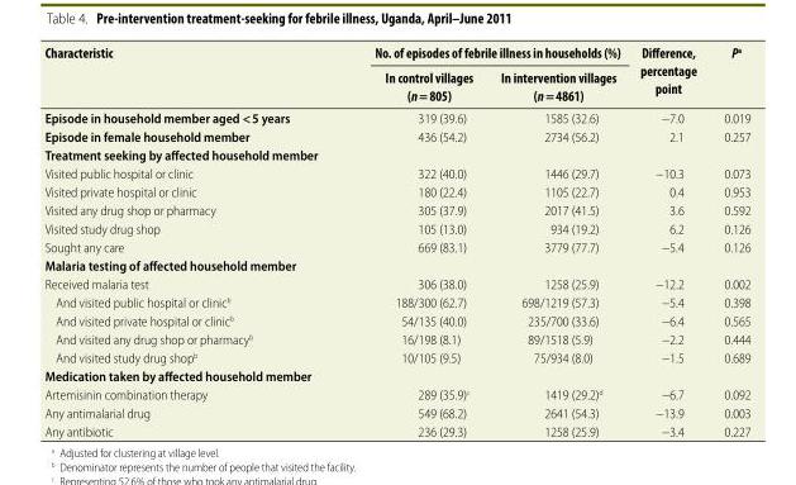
<table><thead><tr><td rowspan="2">Characteristic</td><td colspan="2">No. of episodes of febrile illness in households (%)</td><td rowspan="2">Difference, percentage point</td><td rowspan="2">P<sup>a</sup></td></tr><tr><td>In control villages (n = 805)</td><td>In intervention villages (n = 4861)</td></tr></thead><tbody><tr><td>Episode in household member aged &lt; 5 years</td><td>319 (39.6)</td><td>1585 (32.6)</td><td>−7.0</td><td>0.019</td></tr><tr><td>Episode in female household member</td><td>436 (54.2)</td><td>2734 (56.2)</td><td>2.1</td><td>0.257</td></tr><tr><td colspan="5">Treatment seeking by affected household member</td></tr><tr><td>Visited public hospital or clinic</td><td>322 (40.0)</td><td>1446 (29.7)</td><td>−10.3</td><td>0.073</td></tr><tr><td>Visited private hospital or clinic</td><td>180 (22.4)</td><td>1105 (22.7)</td><td>0.4</td><td>0.953</td></tr><tr><td>Visited any drug shop or pharmacy</td><td>305 (37.9)</td><td>2017 (41.5)</td><td>3.6</td><td>0.592</td></tr><tr><td>Visited study drug shop</td><td>105 (13.0)</td><td>934 (19.2)</td><td>6.2</td><td>0.126</td></tr><tr><td>Sought any care</td><td>669 (83.1)</td><td>3779 (77.7)</td><td>−5.4</td><td>0.126</td></tr><tr><td colspan="5">Malaria testing of affected household member</td></tr><tr><td>Received malaria test</td><td>306 (38.0)</td><td>1258 (25.9)</td><td>−12.2</td><td>0.002</td></tr><tr><td>And visited public hospital or clinic<sup>b</sup></td><td>188/300 (62.7)</td><td>698/1219 (57.3)</td><td>−5.4</td><td>0.398</td></tr><tr><td>And visited private hospital or clinic<sup>b</sup></td><td>54/135 (40.0)</td><td>235/700 (33.6)</td><td>−6.4</td><td>0.565</td></tr><tr><td>And visited any drug shop or pharmacy<sup>b</sup></td><td>16/198 (8.1)</td><td>89/1518 (5.9)</td><td>−2.2</td><td>0.444</td></tr><tr><td>And visited study drug shop<sup>b</sup></td><td>10/105 (9.5)</td><td>75/934 (8.0)</td><td>−1.5</td><td>0.689</td></tr><tr><td colspan="5">Medication taken by affected household member</td></tr><tr><td>Artemisinin combination therapy</td><td>289 (35.9)<sup>c</sup></td><td>1419 (29.2)<sup>d</sup></td><td>−6.7</td><td>0.092</td></tr><tr><td>Any antimalarial drug</td><td>549 (68.2)</td><td>2641 (54.3)</td><td>−13.9</td><td>0.003</td></tr><tr><td>Any antibiotic</td><td>236 (29.3)</td><td>1258 (25.9)</td><td>−3.4</td><td>0.227</td></tr></tbody></table>